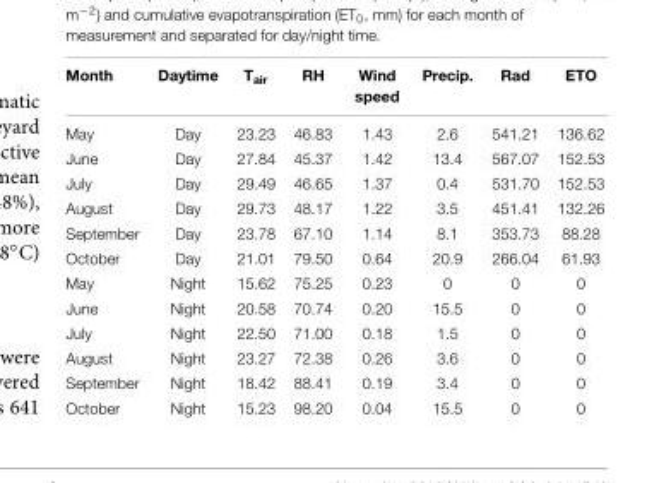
<table><thead><tr><td>Month</td><td>Daytime</td><td>T<sub>air</sub></td><td>RH</td><td>Wind speed</td><td>Precip.</td><td>Rad</td><td>ETO</td></tr></thead><tbody><tr><td>May</td><td>Day</td><td>23.23</td><td>46.83</td><td>1.43</td><td>2.6</td><td>541.21</td><td>136.62</td></tr><tr><td>June</td><td>Day</td><td>27.84</td><td>45.37</td><td>1.42</td><td>13.4</td><td>567.07</td><td>152.53</td></tr><tr><td>July</td><td>Day</td><td>29.49</td><td>46.65</td><td>1.37</td><td>0.4</td><td>531.70</td><td>152.53</td></tr><tr><td>August</td><td>Day</td><td>29.73</td><td>48.17</td><td>1.22</td><td>3.5</td><td>451.41</td><td>132.26</td></tr><tr><td>September</td><td>Day</td><td>23.78</td><td>67.10</td><td>1.14</td><td>8.1</td><td>353.73</td><td>88.28</td></tr><tr><td>October</td><td>Day</td><td>21.01</td><td>79.50</td><td>0.64</td><td>20.9</td><td>266.04</td><td>61.93</td></tr><tr><td>May</td><td>Night</td><td>15.62</td><td>75.25</td><td>0.23</td><td>0</td><td>0</td><td>0</td></tr><tr><td>June</td><td>Night</td><td>20.58</td><td>70.74</td><td>0.20</td><td>15.5</td><td>0</td><td>0</td></tr><tr><td>July</td><td>Night</td><td>22.50</td><td>71.00</td><td>0.18</td><td>1.5</td><td>0</td><td>0</td></tr><tr><td>August</td><td>Night</td><td>23.27</td><td>72.38</td><td>0.26</td><td>3.6</td><td>0</td><td>0</td></tr><tr><td>September</td><td>Night</td><td>18.42</td><td>88.41</td><td>0.19</td><td>3.4</td><td>0</td><td>0</td></tr><tr><td>October</td><td>Night</td><td>15.23</td><td>98.20</td><td>0.04</td><td>15.5</td><td>0</td><td>0</td></tr></tbody></table>